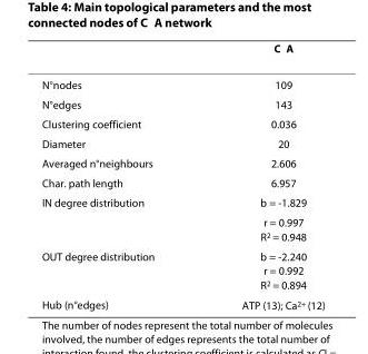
<table><thead><tr><td></td><td>C∩A</td></tr></thead><tbody><tr><td>N°nodes</td><td>109</td></tr><tr><td>N°edges</td><td>143</td></tr><tr><td>Clustering coefficient</td><td>0.036</td></tr><tr><td>Diameter</td><td>20</td></tr><tr><td>Averaged n°neighbours</td><td>2.606</td></tr><tr><td>Char. path length</td><td>6.957</td></tr><tr><td rowspan="2">IN degree distribution</td><td>b = -1.829</td></tr><tr><td>r = 0.997 R<sup>2</sup> = 0.948</td></tr><tr><td>OUT degree distribution</td><td>b = -2.240 r = 0.992 R<sup>2</sup> = 0.894</td></tr><tr><td>Hub (n°edges)</td><td>ATP (13); Ca<sup>2+</sup> (12)</td></tr></tbody></table>